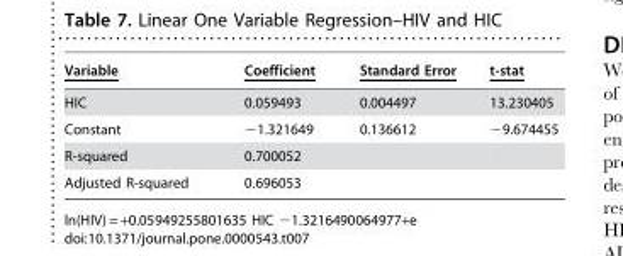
<table><thead><tr><td>Variable</td><td>Coefficient</td><td>Standard Error</td><td>t-stat</td></tr></thead><tbody><tr><td>HIC</td><td>0.059493</td><td>0.004497</td><td>13.230405</td></tr><tr><td>Constant</td><td>−1.321649</td><td>0.136612</td><td>−9.674455</td></tr><tr><td>R-squared</td><td>0.700052</td><td></td><td></td></tr><tr><td>Adjusted R-squared</td><td>0.696053</td><td></td><td></td></tr></tbody></table>